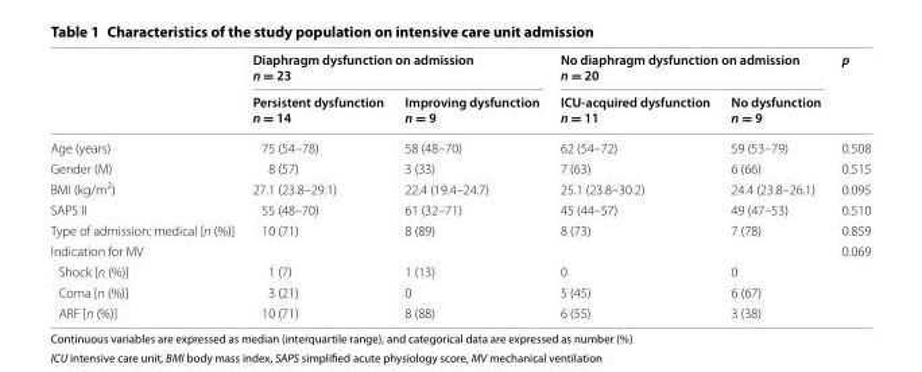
<table><thead><tr><td rowspan="2"></td><td colspan="2">Diaphragm dysfunction on admission n = 23</td><td colspan="2">No diaphragm dysfunction on admission n = 20</td><td rowspan="2">p</td></tr><tr><td>Persistent dysfunction n = 14</td><td>Improving dysfunction n = 9</td><td>ICU-acquired dysfunction n = 11</td><td>No dysfunction n = 9</td></tr></thead><tbody><tr><td>Age (years)</td><td>75 (54–78)</td><td>58 (48–70)</td><td>62 (54–72)</td><td>59 (53–79)</td><td>0.508</td></tr><tr><td>Gender (M)</td><td>8 (57)</td><td>3 (33)</td><td>7 (63)</td><td>6 (66)</td><td>0.515</td></tr><tr><td>BMI (kg/m<sup>2</sup>)</td><td>27.1 (23.8–29.1)</td><td>22.4 (19.4–24.7)</td><td>25.1 (23.8–30.2)</td><td>24.4 (23.8–26.1)</td><td>0.095</td></tr><tr><td>SAPS II</td><td>55 (48–70)</td><td>61 (32–71)</td><td>45 (44–57)</td><td>49 (47–53)</td><td>0.510</td></tr><tr><td>Type of admission: medical [n (%)]</td><td>10 (71)</td><td>8 (89)</td><td>8 (73)</td><td>7 (78)</td><td>0.859</td></tr><tr><td colspan="5">Indication for MV</td><td rowspan="4">0.069</td></tr><tr><td>Shock [n (%)]</td><td>1 (7)</td><td>1 (13)</td><td>0</td><td>0</td></tr><tr><td>Coma [n (%)]</td><td>3 (21)</td><td>0</td><td>5 (45)</td><td>6 (67)</td></tr><tr><td>ARF [n (%)]</td><td>10 (71)</td><td>8 (88)</td><td>6 (55)</td><td>3 (38)</td></tr></tbody></table>